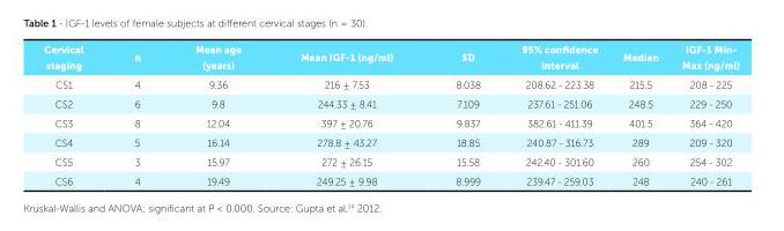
<table><thead><tr><td>Cervical staging</td><td>n</td><td>Mean age (years)</td><td>Mean IGF-1 (ng/ml)</td><td>SD</td><td>95% confidence interval</td><td>Median</td><td>IGF-1 Min- Max (ng/ml)</td></tr></thead><tbody><tr><td>CS1</td><td>4</td><td>9.36</td><td>216 ± 7.53</td><td>8.038</td><td>208.62 - 223.38</td><td>215.5</td><td>208 - 225</td></tr><tr><td>CS2</td><td>6</td><td>9.8</td><td>244.33 ± 8.41</td><td>7.109</td><td>237.61 - 251.06</td><td>248.5</td><td>229 - 250</td></tr><tr><td>CS3</td><td>8</td><td>12.04</td><td>397 ± 20.76</td><td>9.837</td><td>382.61 - 411.39</td><td>401.5</td><td>364 - 420</td></tr><tr><td>CS4</td><td>5</td><td>16.14</td><td>278.8 ± 43.27</td><td>18.85</td><td>240.87 - 316.73</td><td>289</td><td>209 - 320</td></tr><tr><td>CS5</td><td>3</td><td>15.97</td><td>272 ± 26.15</td><td>15.58</td><td>242.40 - 301.60</td><td>260</td><td>254 - 302</td></tr><tr><td>CS6</td><td>4</td><td>19.49</td><td>249.25 ± 9.98</td><td>8.999</td><td>239.47 - 259.03</td><td>248</td><td>240 - 261</td></tr></tbody></table>